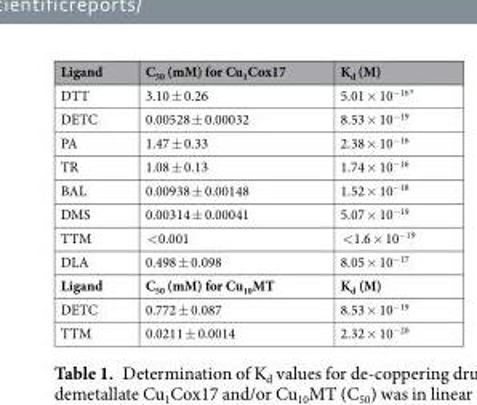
<table><thead><tr><td>Ligand</td><td>C<sub>50</sub> (mM) for Cu<sub>1</sub>Cox17</td><td>K<sub>d</sub> (M)</td></tr></thead><tbody><tr><td>DTT</td><td>3.10 ± 0.26</td><td>5.01 × 10<sup>−16*</sup></td></tr><tr><td>DETC</td><td>0.00528 ± 0.00032</td><td>8.53 × 10<sup>−19</sup></td></tr><tr><td>PA</td><td>1.47 ± 0.33</td><td>2.38 × 10<sup>−16</sup></td></tr><tr><td>TR</td><td>1.08 ± 0.13</td><td>1.74 × 10<sup>−16</sup></td></tr><tr><td>BAL</td><td>0.00938 ± 0.00148</td><td>1.52 × 10<sup>−18</sup></td></tr><tr><td>DMS</td><td>0.00314 ± 0.00041</td><td>5.07 × 10<sup>−19</sup></td></tr><tr><td>TTM</td><td>&lt;0.001</td><td>&lt;1.6 × 10<sup>−19</sup></td></tr><tr><td>DLA</td><td>0.498 ± 0.098</td><td>8.05 × 10<sup>−17</sup></td></tr><tr><td>Ligand</td><td>C<sub>50</sub> (mM) for Cu<sub>10</sub>MT</td><td>K<sub>d</sub> (M)</td></tr><tr><td>DETC</td><td>0.772 ± 0.087</td><td>8.53 × 10<sup>−19</sup></td></tr><tr><td>TTM</td><td>0.0211 ± 0.0014</td><td>2.32 × 10<sup>−20</sup></td></tr></tbody></table>